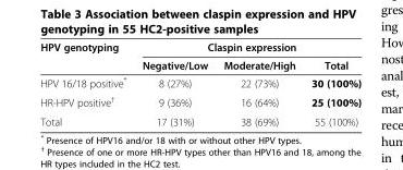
<table><thead><tr><td rowspan="2">HPV genotyping</td><td colspan="3">Claspin expression</td></tr><tr><td>Negative/Low</td><td>Moderate/High</td><td>Total</td></tr></thead><tbody><tr><td>HPV 16/18 positive*</td><td>8 (27%)</td><td>22 (73%)</td><td>30 (100%)</td></tr><tr><td>HR-HPV positive<sup>†</sup></td><td>9 (36%)</td><td>16 (64%)</td><td>25 (100%)</td></tr><tr><td>Total</td><td>17 (31%)</td><td>38 (69%)</td><td>55 (100%)</td></tr></tbody></table>